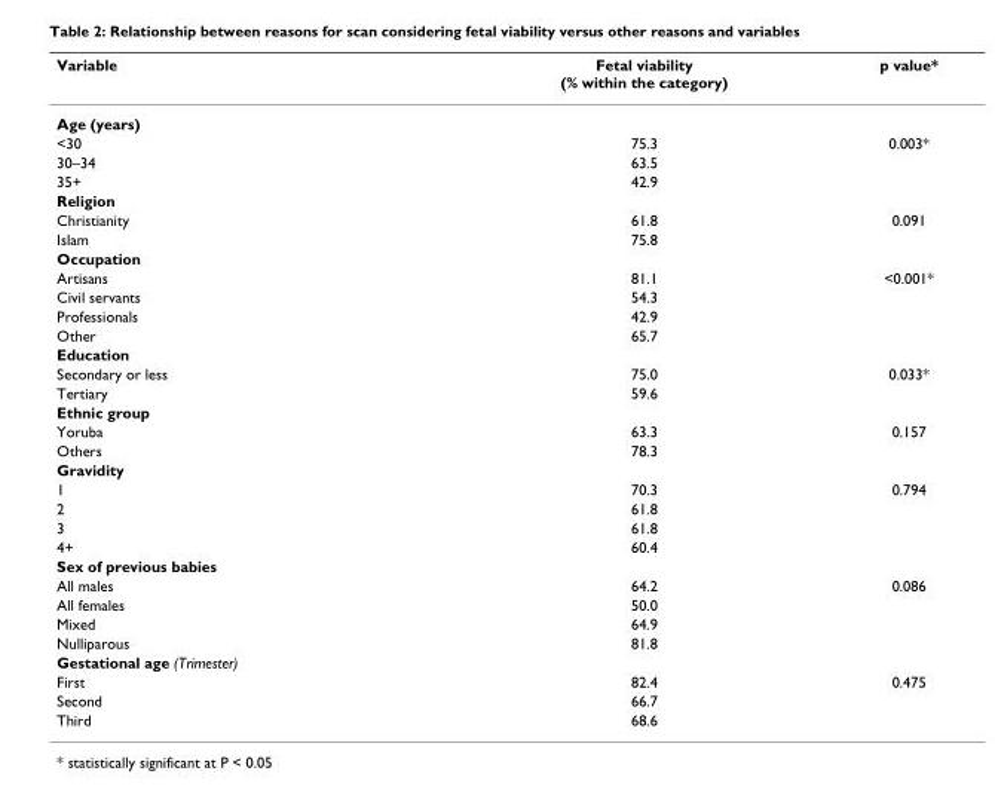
<table><thead><tr><td>Variable</td><td>Fetal viability (% within the category)</td><td>p value*</td></tr></thead><tbody><tr><td colspan="3">Age (years)</td></tr><tr><td>&lt;30</td><td>75.3</td><td>0.003*</td></tr><tr><td>30–34</td><td>63.5</td><td></td></tr><tr><td>35+</td><td>42.9</td><td></td></tr><tr><td colspan="3">Religion</td></tr><tr><td>Christianity</td><td>61.8</td><td>0.091</td></tr><tr><td>Islam</td><td>75.8</td><td></td></tr><tr><td colspan="3">Occupation</td></tr><tr><td>Artisans</td><td>81.1</td><td>&lt;0.001*</td></tr><tr><td>Civil servants</td><td>54.3</td><td></td></tr><tr><td>Professionals</td><td>42.9</td><td></td></tr><tr><td>Other</td><td>65.7</td><td></td></tr><tr><td colspan="3">Education</td></tr><tr><td>Secondary or less</td><td>75.0</td><td>0.033*</td></tr><tr><td>Tertiary</td><td>59.6</td><td></td></tr><tr><td colspan="3">Ethnic group</td></tr><tr><td>Yoruba</td><td>63.3</td><td>0.157</td></tr><tr><td>Others</td><td>78.3</td><td></td></tr><tr><td colspan="3">Gravidity</td></tr><tr><td>1</td><td>70.3</td><td>0.794</td></tr><tr><td>2</td><td>61.8</td><td></td></tr><tr><td>3</td><td>61.8</td><td></td></tr><tr><td>4+</td><td>60.4</td><td></td></tr><tr><td colspan="3">Sex of previous babies</td></tr><tr><td>All males</td><td>64.2</td><td>0.086</td></tr><tr><td>All females</td><td>50.0</td><td></td></tr><tr><td>Mixed</td><td>64.9</td><td></td></tr><tr><td>Nulliparous</td><td>81.8</td><td></td></tr><tr><td colspan="3">Gestational age (Trimester)</td></tr><tr><td>First</td><td>82.4</td><td>0.475</td></tr><tr><td>Second</td><td>66.7</td><td></td></tr><tr><td>Third</td><td>68.6</td><td></td></tr></tbody></table>